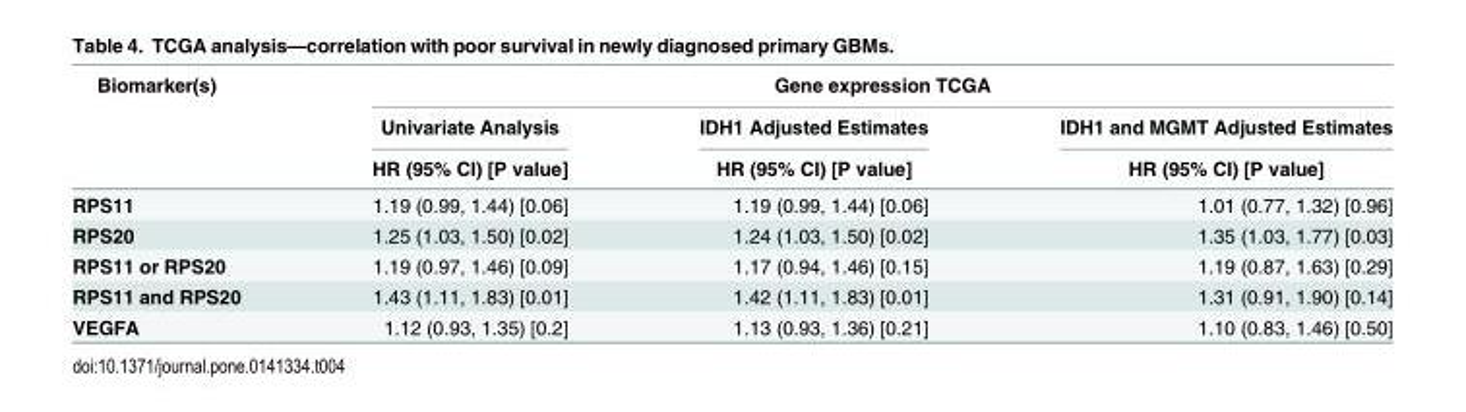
<table><thead><tr><td rowspan="3">Biomarker(s)</td><td colspan="3">Gene expression TCGA</td></tr><tr><td rowspan="2">Univariate Analysis HR (95% CI) [P value]</td><td rowspan="2">IDH1 Adjusted Estimates HR (95% CI) [P value]</td><td rowspan="2">IDH1 and MGMT Adjusted Estimates HR (95% CI) [P value]</td></tr><tr></tr></thead><tbody><tr><td>RPS11</td><td>1.19 (0.99, 1.44) [0.06]</td><td>1.19 (0.99, 1.44) [0.06]</td><td>1.01 (0.77, 1.32) [0.96]</td></tr><tr><td>RPS20</td><td>1.25 (1.03, 1.50) [0.02]</td><td>1.24 (1.03, 1.50) [0.02]</td><td>1.35 (1.03, 1.77) [0.03]</td></tr><tr><td>RPS11 or RPS20</td><td>1.19 (0.97, 1.46) [0.09]</td><td>1.17 (0.94, 1.46) [0.15]</td><td>1.19 (0.87, 1.63) [0.29]</td></tr><tr><td>RPS11 and RPS20</td><td>1.43 (1.11, 1.83) [0.01]</td><td>1.42 (1.11, 1.83) [0.01]</td><td>1.31 (0.91, 1.90) [0.14]</td></tr><tr><td>VEGFA</td><td>1.12 (0.93, 1.35) [0.2]</td><td>1.13 (0.93, 1.36) [0.21]</td><td>1.10 (0.83, 1.46) [0.50]</td></tr></tbody></table>